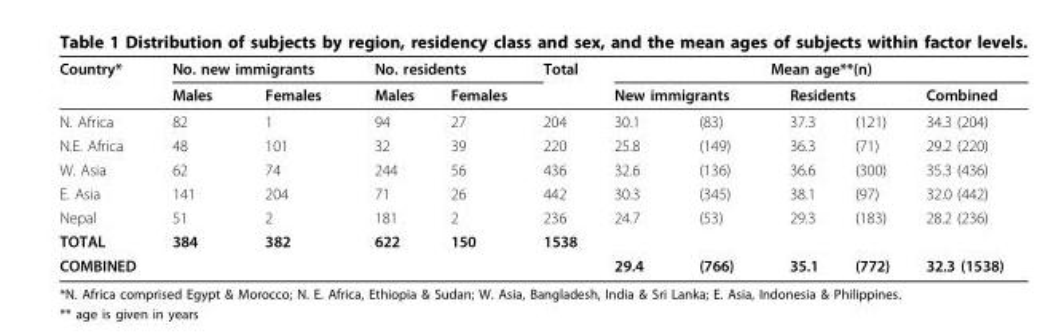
<table><thead><tr><td rowspan="3">Country* N. Africa</td><td colspan="2">No. new immigrants</td><td colspan="2">No. residents</td><td rowspan="3">Total 204</td><td colspan="5">Mean age**(n)</td></tr><tr><td rowspan="2">Males 82</td><td rowspan="2">Females 1</td><td rowspan="2">Males 94</td><td rowspan="2">Females 27</td><td colspan="2">New immigrants</td><td colspan="2">Residents</td><td rowspan="2">Combined 34.3 (204)</td></tr><tr><td>30.1</td><td>(83)</td><td>37.3</td><td>(121)</td></tr></thead><tbody><tr><td>N.E. Africa</td><td>48</td><td>101</td><td>32</td><td>39</td><td>220</td><td>25.8</td><td>(149)</td><td>36.3</td><td>(71)</td><td>29.2 (220)</td></tr><tr><td>W. Asia</td><td>62</td><td>74</td><td>244</td><td>56</td><td>436</td><td>32.6</td><td>(136)</td><td>36.6</td><td>(300)</td><td>35.3 (436)</td></tr><tr><td>E. Asia</td><td>141</td><td>204</td><td>71</td><td>26</td><td>442</td><td>30.3</td><td>(345)</td><td>38.1</td><td>(97)</td><td>32.0 (442)</td></tr><tr><td>Nepal</td><td>51</td><td>2</td><td>181</td><td>2</td><td>236</td><td>24.7</td><td>(53)</td><td>29.3</td><td>(183)</td><td>28.2 (236)</td></tr><tr><td>TOTAL</td><td>384</td><td>382</td><td>622</td><td>150</td><td>1538</td><td></td><td></td><td></td><td></td><td></td></tr><tr><td>COMBINED</td><td></td><td></td><td></td><td></td><td></td><td>29.4</td><td>(766)</td><td>35.1</td><td>(772)</td><td>32.3 (1538)</td></tr></tbody></table>